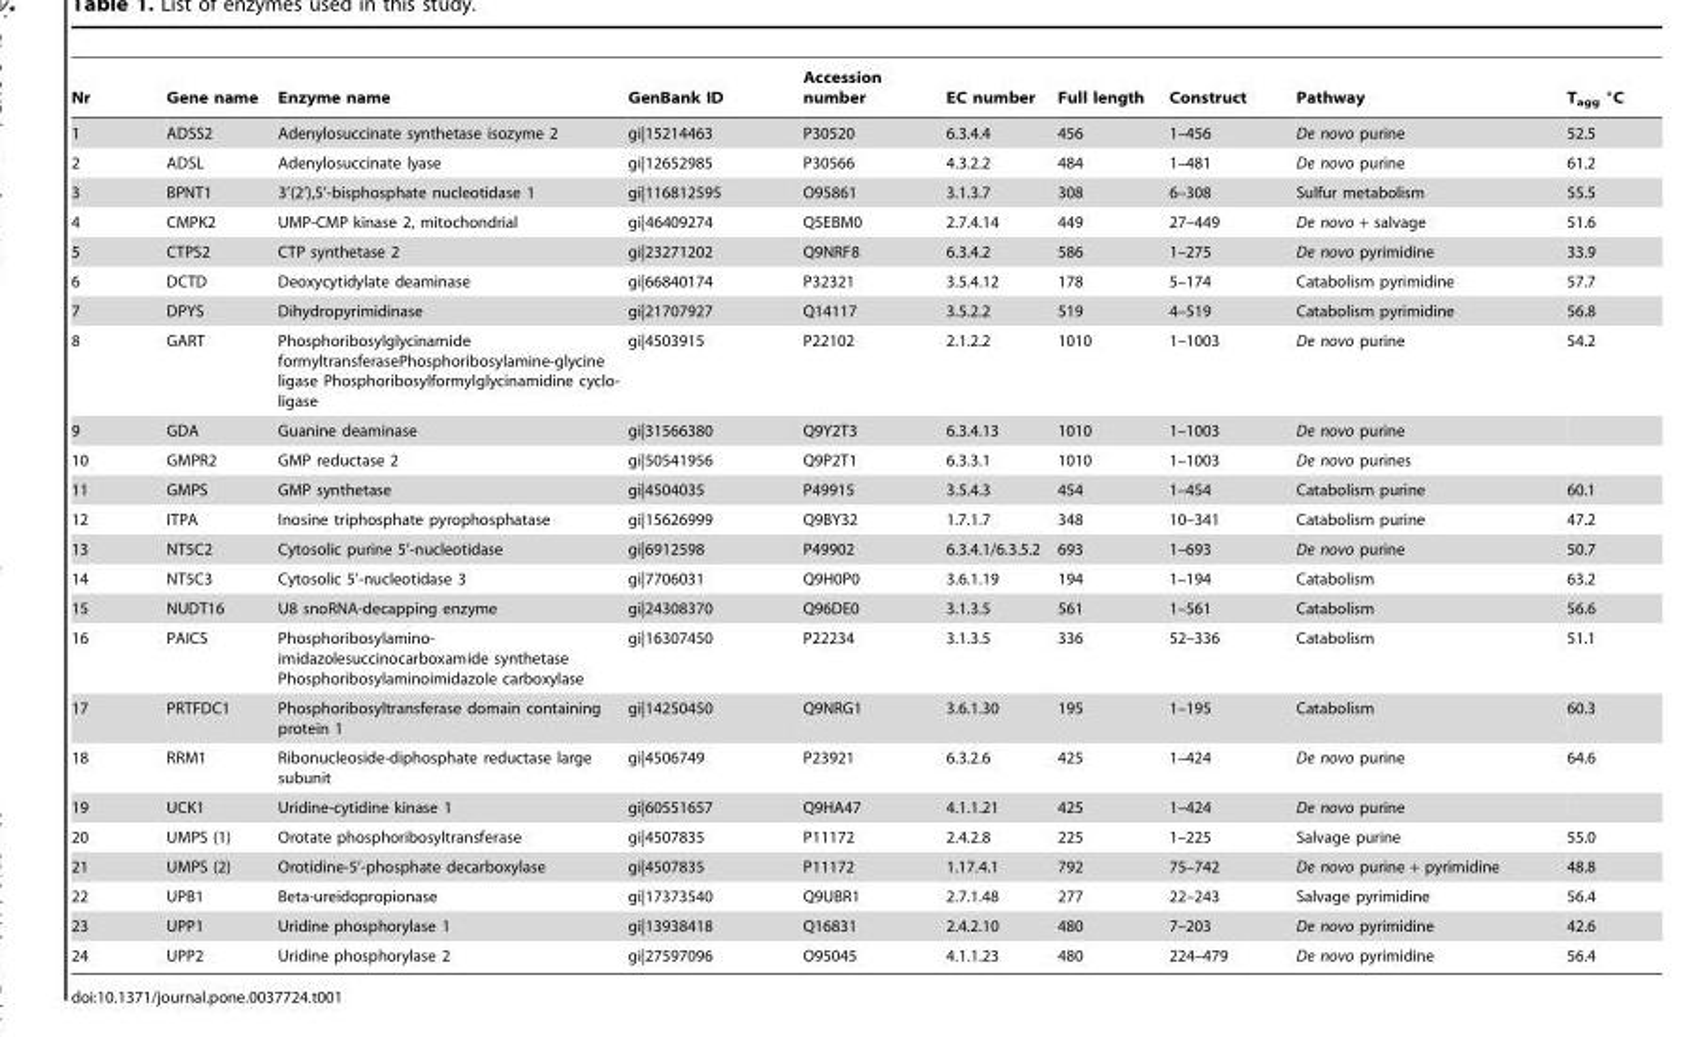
<table><thead><tr><td>Nr</td><td>Gene name</td><td>Enzyme name</td><td>GenBank ID</td><td>Accession number</td><td>EC number</td><td>Full length</td><td>Construct</td><td>Pathway</td><td>T<sub>agg</sub> °C</td></tr></thead><tbody><tr><td>1</td><td>ADSS2</td><td>Adenylosuccinate synthetase isozyme 2</td><td>gi|15214463</td><td>P30520</td><td>6.3.4.4</td><td>456</td><td>1–456</td><td>De novo purine</td><td>52.5</td></tr><tr><td>2</td><td>ADSL</td><td>Adenylosuccinate lyase</td><td>gi|12652985</td><td>P30566</td><td>4.3.2.2</td><td>484</td><td>1–481</td><td>De novo purine</td><td>61.2</td></tr><tr><td>3</td><td>BPNT1</td><td>3’(2’),5’-bisphosphate nucleotidase 1</td><td>gi|116812595</td><td>O95861</td><td>3.1.3.7</td><td>308</td><td>6–308</td><td>Sulfur metabolism</td><td>55.5</td></tr><tr><td>4</td><td>CMPK2</td><td>UMP-CMP kinase 2, mitochondrial</td><td>gi|46409274</td><td>Q5EBM0</td><td>2.7.4.14</td><td>449</td><td>27–449</td><td>De novo + salvage</td><td>51.6</td></tr><tr><td>5</td><td>CTPS2</td><td>CTP synthetase 2</td><td>gi|23271202</td><td>Q9NRF8</td><td>6.3.4.2</td><td>586</td><td>1–275</td><td>De novo pyrimidine</td><td>33.9</td></tr><tr><td>6</td><td>DCTD</td><td>Deoxycytidylate deaminase</td><td>gi|66840174</td><td>P32321</td><td>3.5.4.12</td><td>178</td><td>5–174</td><td>Catabolism pyrimidine</td><td>57.7</td></tr><tr><td>7</td><td>DPYS</td><td>Dihydropyrimidinase</td><td>gi|21707927</td><td>Q14117</td><td>3.5.2.2</td><td>519</td><td>4–519</td><td>Catabolism pyrimidine</td><td>56.8</td></tr><tr><td>8</td><td>GART</td><td>Phosphoribosylglycinamide formyltransferasePhosphoribosylamine-glycine ligase Phosphoribosylformylglycinamidine cyclo- ligase</td><td>gi|4503915</td><td>P22102</td><td>2.1.2.2</td><td>1010</td><td>1–1003</td><td>De novo purine</td><td>54.2</td></tr><tr><td>9</td><td>GDA</td><td>Guanine deaminase</td><td>gi|31566380</td><td>Q9Y2T3</td><td>6.3.4.13</td><td>1010</td><td>1–1003</td><td>De novo purine</td><td></td></tr><tr><td>10</td><td>GMPR2</td><td>GMP reductase 2</td><td>gi|50541956</td><td>Q9P2T1</td><td>6.3.3.1</td><td>1010</td><td>1–1003</td><td>De novo purines</td><td></td></tr><tr><td>11</td><td>GMPS</td><td>GMP synthetase</td><td>gi|4504035</td><td>P49915</td><td>3.5.4.3</td><td>454</td><td>1–454</td><td>Catabolism purine</td><td>60.1</td></tr><tr><td>12</td><td>ITPA</td><td>Inosine triphosphate pyrophosphatase</td><td>gi|15626999</td><td>Q9BY32</td><td>1.7.1.7</td><td>348</td><td>10–341</td><td>Catabolism purine</td><td>47.2</td></tr><tr><td>13</td><td>NT5C2</td><td>Cytosolic purine 5’-nucleotidase</td><td>gi|6912598</td><td>P49902</td><td>6.3.4.1/6.3.5.2</td><td>693</td><td>1–693</td><td>De novo purine</td><td>50.7</td></tr><tr><td>14</td><td>NT5C3</td><td>Cytosolic 5’-nucleotidase 3</td><td>gi|7706031</td><td>Q9H0P0</td><td>3.6.1.19</td><td>194</td><td>1–194</td><td>Catabolism</td><td>63.2</td></tr><tr><td>15</td><td>NUDT16</td><td>U8 snoRNA-decapping enzyme</td><td>gi|24308370</td><td>Q96DE0</td><td>3.1.3.5</td><td>561</td><td>1–561</td><td>Catabolism</td><td>56.6</td></tr><tr><td>16</td><td>PAICS</td><td>Phosphoribosylamino- imidazolesuccinocarboxamide synthetase Phosphoribosylaminoimidazole carboxylase</td><td>gi|16307450</td><td>P22234</td><td>3.1.3.5</td><td>336</td><td>52–336</td><td>Catabolism</td><td>51.1</td></tr><tr><td>17</td><td>PRTFDC1</td><td>Phosphoribosyltransferase domain containing protein 1</td><td>gi|14250450</td><td>Q9NRG1</td><td>3.6.1.30</td><td>195</td><td>1–195</td><td>Catabolism</td><td>60.3</td></tr><tr><td>18</td><td>RRM1</td><td>Ribonucleoside-diphosphate reductase large subunit</td><td>gi|4506749</td><td>P23921</td><td>6.3.2.6</td><td>425</td><td>1–424</td><td>De novo purine</td><td>64.6</td></tr><tr><td>19</td><td>UCK1</td><td>Uridine-cytidine kinase 1</td><td>gi|60551657</td><td>Q9HA47</td><td>4.1.1.21</td><td>425</td><td>1–424</td><td>De novo purine</td><td></td></tr><tr><td>20</td><td>UMPS (1)</td><td>Orotate phosphoribosyltransferase</td><td>gi|4507835</td><td>P11172</td><td>2.4.2.8</td><td>225</td><td>1–225</td><td>Salvage purine</td><td>55.0</td></tr><tr><td>21</td><td>UMPS (2)</td><td>Orotidine-5’-phosphate decarboxylase</td><td>gi|4507835</td><td>P11172</td><td>1.17.4.1</td><td>792</td><td>75–742</td><td>De novo purine + pyrimidine</td><td>48.8</td></tr><tr><td>22</td><td>UPB1</td><td>Beta-ureidopropionase</td><td>gi|17373540</td><td>Q9UBR1</td><td>2.7.1.48</td><td>277</td><td>22–243</td><td>Salvage pyrimidine</td><td>56.4</td></tr><tr><td>23</td><td>UPP1</td><td>Uridine phosphorylase 1</td><td>gi|13938418</td><td>Q16831</td><td>2.4.2.10</td><td>480</td><td>7–203</td><td>De novo pyrimidine</td><td>42.6</td></tr><tr><td>24</td><td>UPP2</td><td>Uridine phosphorylase 2</td><td>gi|27597096</td><td>O95045</td><td>4.1.1.23</td><td>480</td><td>224–479</td><td>De novo pyrimidine</td><td>56.4</td></tr></tbody></table>